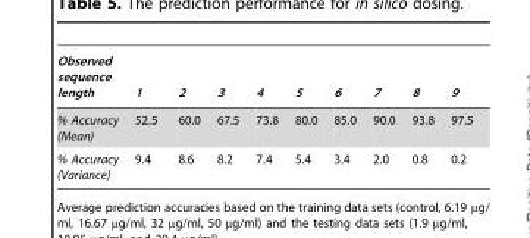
<table><thead><tr><td>Observed sequence length</td><td>1</td><td>2</td><td>3</td><td>4</td><td>5</td><td>6</td><td>7</td><td>8</td><td>9</td></tr></thead><tbody><tr><td>% Accuracy (Mean)</td><td>52.5</td><td>60.0</td><td>67.5</td><td>73.8</td><td>80.0</td><td>85.0</td><td>90.0</td><td>93.8</td><td>97.5</td></tr><tr><td>% Accuracy (Variance)</td><td>9.4</td><td>8.6</td><td>8.2</td><td>7.4</td><td>5.4</td><td>3.4</td><td>2.0</td><td>0.8</td><td>0.2</td></tr></tbody></table>